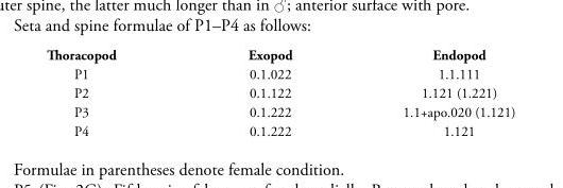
<table><tbody><tr><td>Thoracopod</td><td>Exopod</td><td>Endopod</td></tr><tr><td>P1</td><td>0.1.022</td><td>1.1.111</td></tr><tr><td>P2</td><td>0.1.122</td><td>1.121 (1.221)</td></tr><tr><td>P3</td><td>0.1.222</td><td>1.1+apo.020 (1.121)</td></tr><tr><td>P4</td><td>0.1.222</td><td>1.121</td></tr></tbody></table>